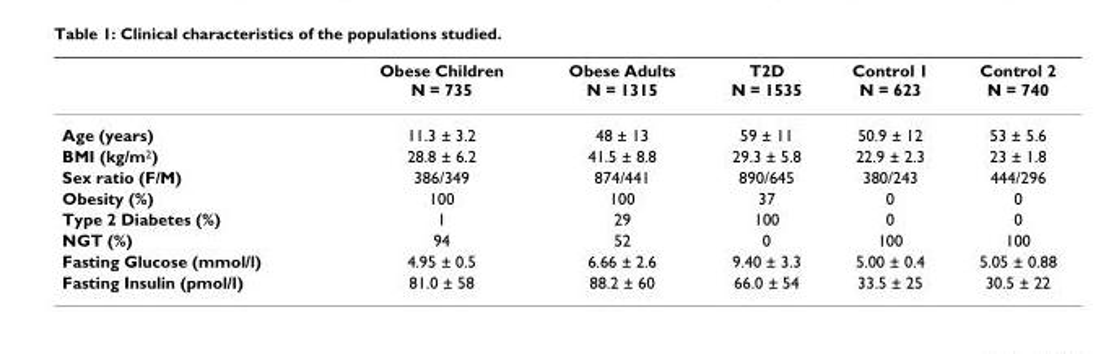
<table><thead><tr><td></td><td>Obese Children N = 735</td><td>Obese Adults N = 1315</td><td>T2D N = 1535</td><td>Control 1 N = 623</td><td>Control 2 N = 740</td></tr></thead><tbody><tr><td>Age (years)</td><td>11.3 ± 3.2</td><td>48 ± 13</td><td>59 ± 11</td><td>50.9 ± 12</td><td>53 ± 5.6</td></tr><tr><td>BMI (kg/m<sup>2</sup>)</td><td>28.8 ± 6.2</td><td>41.5 ± 8.8</td><td>29.3 ± 5.8</td><td>22.9 ± 2.3</td><td>23 ± 1.8</td></tr><tr><td>Sex ratio (F/M)</td><td>386/349</td><td>874/441</td><td>890/645</td><td>380/243</td><td>444/296</td></tr><tr><td>Obesity (%)</td><td>100</td><td>100</td><td>37</td><td>0</td><td>0</td></tr><tr><td>Type 2 Diabetes (%)</td><td>1</td><td>29</td><td>100</td><td>0</td><td>0</td></tr><tr><td>NGT (%)</td><td>94</td><td>52</td><td>0</td><td>100</td><td>100</td></tr><tr><td>Fasting Glucose (mmol/l)</td><td>4.95 ± 0.5</td><td>6.66 ± 2.6</td><td>9.40 ± 3.3</td><td>5.00 ± 0.4</td><td>5.05 ± 0.88</td></tr><tr><td>Fasting Insulin (pmol/l)</td><td>81.0 ± 58</td><td>88.2 ± 60</td><td>66.0 ± 54</td><td>33.5 ± 25</td><td>30.5 ± 22</td></tr></tbody></table>